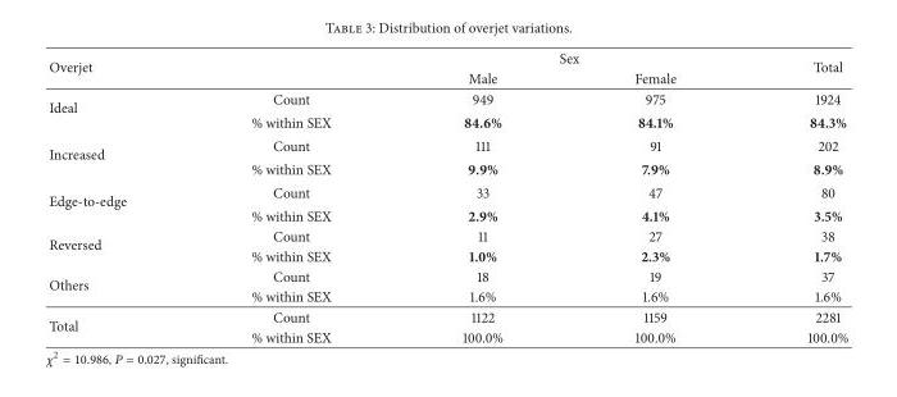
<table><thead><tr><td rowspan="2">Overjet</td><td rowspan="2"></td><td colspan="2">Sex</td><td rowspan="2">Total</td></tr><tr><td>Male</td><td>Female</td></tr></thead><tbody><tr><td rowspan="2">Ideal</td><td>Count</td><td>949</td><td>975</td><td>1924</td></tr><tr><td>% within SEX</td><td>84.6%</td><td>84.1%</td><td>84.3%</td></tr><tr><td rowspan="2">Increased</td><td>Count</td><td>111</td><td>91</td><td>202</td></tr><tr><td>% within SEX</td><td>9.9%</td><td>7.9%</td><td>8.9%</td></tr><tr><td rowspan="2">Edge-to-edge</td><td>Count</td><td>33</td><td>47</td><td>80</td></tr><tr><td>% within SEX</td><td>2.9%</td><td>4.1%</td><td>3.5%</td></tr><tr><td rowspan="2">Reversed</td><td>Count</td><td>11</td><td>27</td><td>38</td></tr><tr><td>% within SEX</td><td>1.0%</td><td>2.3%</td><td>1.7%</td></tr><tr><td rowspan="2">Others</td><td>Count</td><td>18</td><td>19</td><td>37</td></tr><tr><td>% within SEX</td><td>1.6%</td><td>1.6%</td><td>1.6%</td></tr><tr><td rowspan="2">Total</td><td>Count</td><td>1122</td><td>1159</td><td>2281</td></tr><tr><td>% within SEX</td><td>100.0%</td><td>100.0%</td><td>100.0%</td></tr></tbody></table>